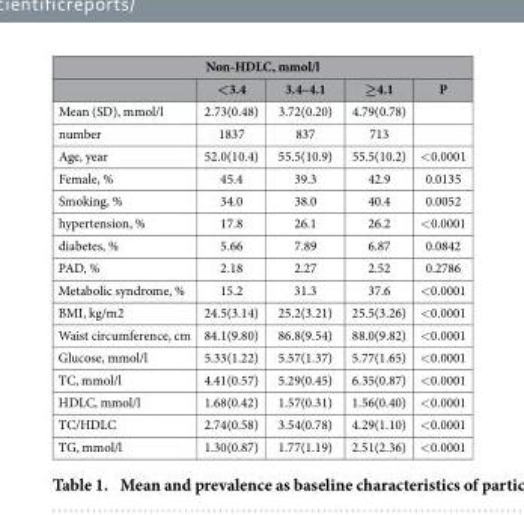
<table><thead><tr><td colspan="5">Non-HDLC, mmol/l</td></tr><tr><td></td><td>&lt;3.4</td><td>3.4–4.1</td><td>≥4.1</td><td>P</td></tr></thead><tbody><tr><td>Mean (SD), mmol/l</td><td>2.73(0.48)</td><td>3.72(0.20)</td><td>4.79(0.78)</td><td></td></tr><tr><td>number</td><td>1837</td><td>837</td><td>713</td><td></td></tr><tr><td>Age, year</td><td>52.0(10.4)</td><td>55.5(10.9)</td><td>55.5(10.2)</td><td>&lt; 0.0001</td></tr><tr><td>Female, %</td><td>45.4</td><td>39.3</td><td>42.9</td><td>0.0135</td></tr><tr><td>Smoking, %</td><td>34.0</td><td>38.0</td><td>40.4</td><td>0.0052</td></tr><tr><td>hypertension, %</td><td>17.8</td><td>26.1</td><td>26.2</td><td>&lt; 0.0001</td></tr><tr><td>diabetes, %</td><td>5.66</td><td>7.89</td><td>6.87</td><td>0.0842</td></tr><tr><td>PAD, %</td><td>2.18</td><td>2.27</td><td>2.52</td><td>0.2786</td></tr><tr><td>Metabolic syndrome, %</td><td>15.2</td><td>31.3</td><td>37.6</td><td>&lt; 0.0001</td></tr><tr><td>BMI, kg/m2</td><td>24.5(3.14)</td><td>25.2(3.21)</td><td>25.5(3.26)</td><td>&lt; 0.0001</td></tr><tr><td>Waist circumference, cm</td><td>84.1(9.80)</td><td>86.8(9.54)</td><td>88.0(9.82)</td><td>&lt; 0.0001</td></tr><tr><td>Glucose, mmol/l</td><td>5.33(1.22)</td><td>5.57(1.37)</td><td>5.77(1.65)</td><td>&lt; 0.0001</td></tr><tr><td>TC, mmol/l</td><td>4.41(0.57)</td><td>5.29(0.45)</td><td>6.35(0.87)</td><td>&lt; 0.0001</td></tr><tr><td>HDLC, mmol/l</td><td>1.68(0.42)</td><td>1.57(0.31)</td><td>1.56(0.40)</td><td>&lt; 0.0001</td></tr><tr><td>TC/HDLC</td><td>2.74(0.58)</td><td>3.54(0.78)</td><td>4.29(1.10)</td><td>&lt; 0.0001</td></tr><tr><td>TG, mmol/l</td><td>1.30(0.87)</td><td>1.77(1.19)</td><td>2.51(2.36)</td><td>&lt; 0.0001</td></tr></tbody></table>